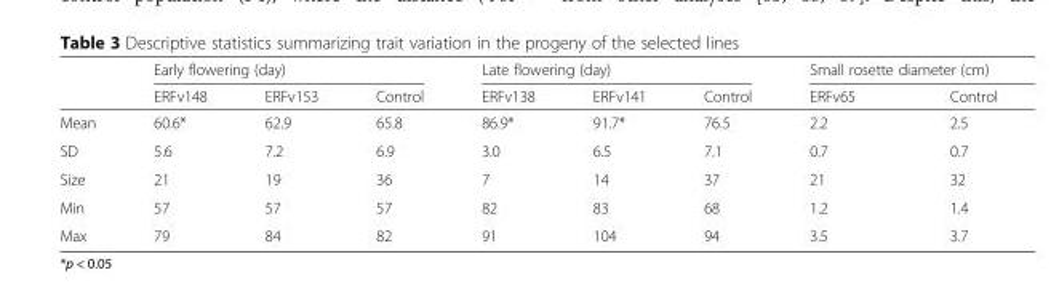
<table><thead><tr><td rowspan="2"></td><td colspan="3">Early flowering (day)</td><td colspan="3">Late flowering (day)</td><td colspan="2">Small rosette diameter (cm)</td></tr><tr><td>ERFv148</td><td>ERFv153</td><td>Control</td><td>ERFv138</td><td>ERFv141</td><td>Control</td><td>ERFv65</td><td>Control</td></tr></thead><tbody><tr><td>Mean</td><td>60.6*</td><td>62.9</td><td>65.8</td><td>86.9*</td><td>91.7*</td><td>76.5</td><td>2.2</td><td>2.5</td></tr><tr><td>SD</td><td>5.6</td><td>7.2</td><td>6.9</td><td>3.0</td><td>6.5</td><td>7.1</td><td>0.7</td><td>0.7</td></tr><tr><td>Size</td><td>21</td><td>19</td><td>36</td><td>7</td><td>14</td><td>37</td><td>21</td><td>32</td></tr><tr><td>Min</td><td>57</td><td>57</td><td>57</td><td>82</td><td>83</td><td>68</td><td>1.2</td><td>1.4</td></tr><tr><td>Max</td><td>79</td><td>84</td><td>82</td><td>91</td><td>104</td><td>94</td><td>3.5</td><td>3.7</td></tr></tbody></table>